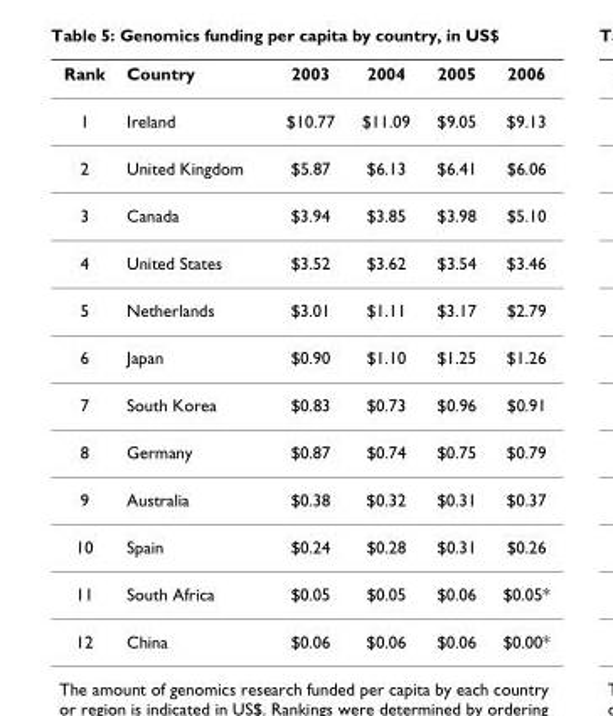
<table><thead><tr><td>Rank</td><td>Country</td><td>2003</td><td>2004</td><td>2005</td><td>2006</td></tr></thead><tbody><tr><td>1</td><td>Ireland</td><td>$10.77</td><td>$11.09</td><td>$9.05</td><td>$9.13</td></tr><tr><td>2</td><td>United Kingdom</td><td>$5.87</td><td>$6.13</td><td>$6.41</td><td>$6.06</td></tr><tr><td>3</td><td>Canada</td><td>$3.94</td><td>$3.85</td><td>$3.98</td><td>$5.10</td></tr><tr><td>4</td><td>United States</td><td>$3.52</td><td>$3.62</td><td>$3.54</td><td>$3.46</td></tr><tr><td>5</td><td>Netherlands</td><td>$3.01</td><td>$1.11</td><td>$3.17</td><td>$2.79</td></tr><tr><td>6</td><td>Japan</td><td>$0.90</td><td>$1.10</td><td>$1.25</td><td>$1.26</td></tr><tr><td>7</td><td>South Korea</td><td>$0.83</td><td>$0.73</td><td>$0.96</td><td>$0.91</td></tr><tr><td>8</td><td>Germany</td><td>$0.87</td><td>$0.74</td><td>$0.75</td><td>$0.79</td></tr><tr><td>9</td><td>Australia</td><td>$0.38</td><td>$0.32</td><td>$0.31</td><td>$0.37</td></tr><tr><td>10</td><td>Spain</td><td>$0.24</td><td>$0.28</td><td>$0.31</td><td>$0.26</td></tr><tr><td>11</td><td>South Africa</td><td>$0.05</td><td>$0.05</td><td>$0.06</td><td>$0.05*</td></tr><tr><td>12</td><td>China</td><td>$0.06</td><td>$0.06</td><td>$0.06</td><td>$0.00*</td></tr></tbody></table>